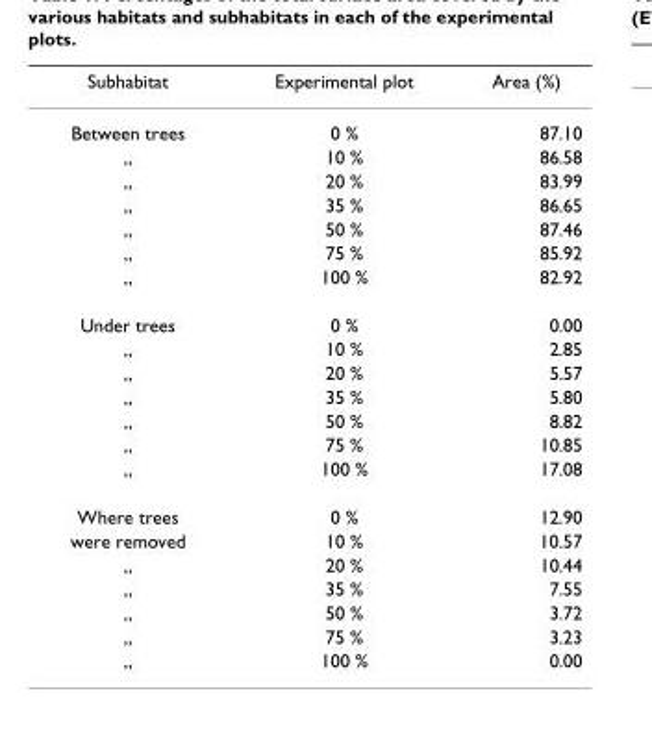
<table><thead><tr><td>Subhabitat</td><td>Experimental plot</td><td>Area (%)</td></tr></thead><tbody><tr><td>Between trees</td><td>0 %</td><td>87.10</td></tr><tr><td>,,</td><td>10 %</td><td>86.58</td></tr><tr><td>,,</td><td>20 %</td><td>83.99</td></tr><tr><td>,,</td><td>35 %</td><td>86.65</td></tr><tr><td>,,</td><td>50 %</td><td>87.46</td></tr><tr><td>,,</td><td>75 %</td><td>85.92</td></tr><tr><td>,,</td><td>100 %</td><td>82.92</td></tr><tr><td>Under trees</td><td>0 %</td><td>0.00</td></tr><tr><td>,,</td><td>10 %</td><td>2.85</td></tr><tr><td>,,</td><td>20 %</td><td>5.57</td></tr><tr><td>,,</td><td>35 %</td><td>5.80</td></tr><tr><td>,,</td><td>50 %</td><td>8.82</td></tr><tr><td>,,</td><td>75 %</td><td>10.85</td></tr><tr><td>,,</td><td>100 %</td><td>17.08</td></tr><tr><td>Where trees</td><td>0 %</td><td>12.90</td></tr><tr><td>were removed</td><td>10 %</td><td>10.57</td></tr><tr><td>,,</td><td>20 %</td><td>10.44</td></tr><tr><td>,,</td><td>35 %</td><td>7.55</td></tr><tr><td>,,</td><td>50 %</td><td>3.72</td></tr><tr><td>,,</td><td>75 %</td><td>3.23</td></tr><tr><td>,,</td><td>100 %</td><td>0.00</td></tr></tbody></table>